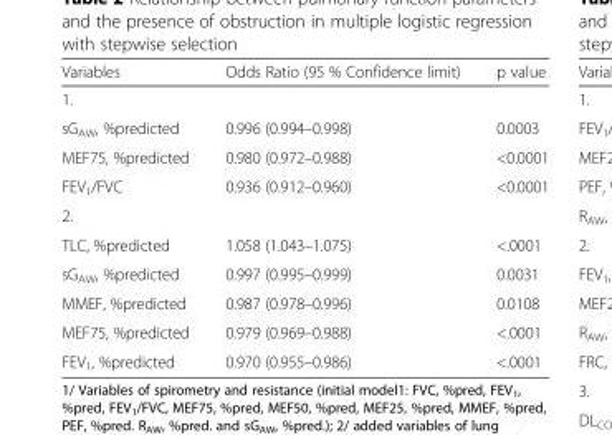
<table><thead><tr><td>Variables</td><td>Odds Ratio (95 % Confidence limit)</td><td>p value</td></tr></thead><tbody><tr><td colspan="3">1.</td></tr><tr><td>sG<sub>AW</sub>, %predicted</td><td>0.996 (0.994–0.998)</td><td>0.0003</td></tr><tr><td>MEF75, %predicted</td><td>0.980 (0.972–0.988)</td><td>&lt;0.0001</td></tr><tr><td>FEV<sub>1</sub>/FVC</td><td>0.936 (0.912–0.960)</td><td>&lt;0.0001</td></tr><tr><td colspan="3">2.</td></tr><tr><td>TLC, %predicted</td><td>1.058 (1.043–1.075)</td><td>&lt;.0001</td></tr><tr><td>sG<sub>AW</sub>, %predicted</td><td>0.997 (0.995–0.999)</td><td>0.0031</td></tr><tr><td>MMEF, %predicted</td><td>0.987 (0.978–0.996)</td><td>0.0108</td></tr><tr><td>MEF75, %predicted</td><td>0.979 (0.969–0.988)</td><td>&lt;.0001</td></tr><tr><td>FEV<sub>1</sub>, %predicted</td><td>0.970 (0.955–0.986)</td><td>&lt;.0001</td></tr></tbody></table>